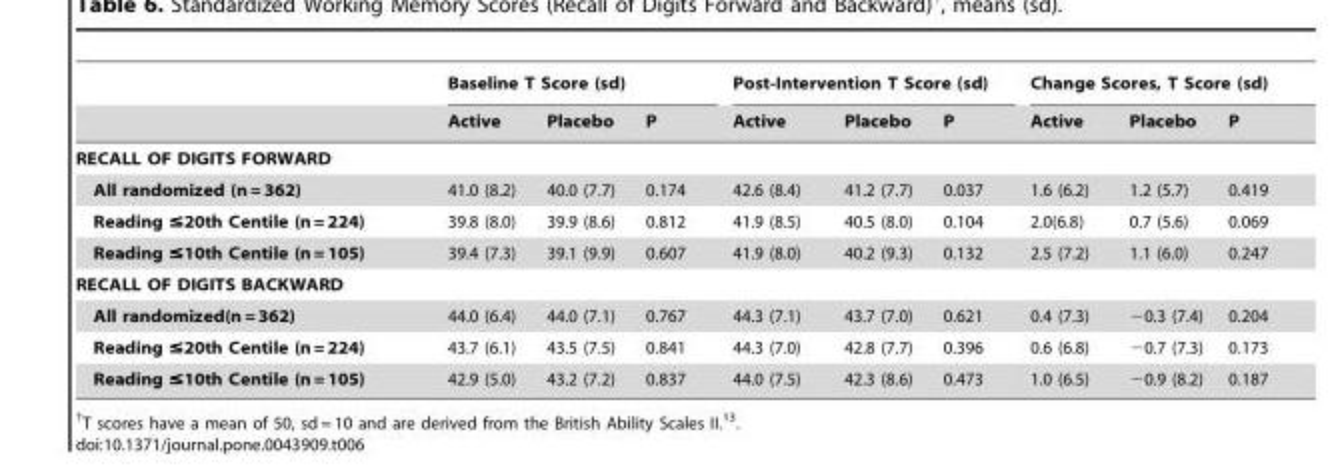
<table><thead><tr><td rowspan="2"></td><td colspan="3">Baseline T Score (sd)</td><td colspan="3">Post-Intervention T Score (sd)</td><td colspan="3">Change Scores, T Score (sd)</td></tr><tr><td>Active</td><td>Placebo</td><td>P</td><td>Active</td><td>Placebo</td><td>P</td><td>Active</td><td>Placebo</td><td>P</td></tr></thead><tbody><tr><td colspan="10">RECALL OF DIGITS FORWARD</td></tr><tr><td>All randomized (n = 362)</td><td>41.0 (8.2)</td><td>40.0 (7.7)</td><td>0.174</td><td>42.6 (8.4)</td><td>41.2 (7.7)</td><td>0.037</td><td>1.6 (6.2)</td><td>1.2 (5.7)</td><td>0.419</td></tr><tr><td>Reading ≤20th Centile (n = 224)</td><td>39.8 (8.0)</td><td>39.9 (8.6)</td><td>0.812</td><td>41.9 (8.5)</td><td>40.5 (8.0)</td><td>0.104</td><td>2.0(6.8)</td><td>0.7 (5.6)</td><td>0.069</td></tr><tr><td>Reading ≤10th Centile (n = 105)</td><td>39.4 (7.3)</td><td>39.1 (9.9)</td><td>0.607</td><td>41.9 (8.0)</td><td>40.2 (9.3)</td><td>0.132</td><td>2.5 (7.2)</td><td>1.1 (6.0)</td><td>0.247</td></tr><tr><td colspan="10">RECALL OF DIGITS BACKWARD</td></tr><tr><td>All randomized(n = 362)</td><td>44.0 (6.4)</td><td>44.0 (7.1)</td><td>0.767</td><td>44.3 (7.1)</td><td>43.7 (7.0)</td><td>0.621</td><td>0.4 (7.3)</td><td>−0.3 (7.4)</td><td>0.204</td></tr><tr><td>Reading ≤20th Centile (n = 224)</td><td>43.7 (6.1)</td><td>43.5 (7.5)</td><td>0.841</td><td>44.3 (7.0)</td><td>42.8 (7.7)</td><td>0.396</td><td>0.6 (6.8)</td><td>−0.7 (7.3)</td><td>0.173</td></tr><tr><td>Reading ≤10th Centile (n = 105)</td><td>42.9 (5.0)</td><td>43.2 (7.2)</td><td>0.837</td><td>44.0 (7.5)</td><td>42.3 (8.6)</td><td>0.473</td><td>1.0 (6.5)</td><td>−0.9 (8.2)</td><td>0.187</td></tr></tbody></table>